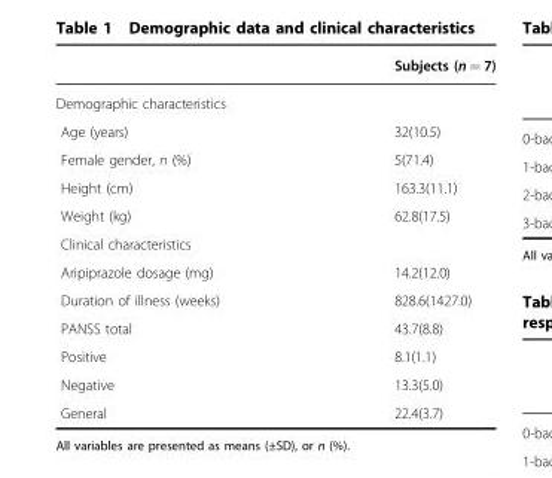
<table><thead><tr><td></td><td>Subjects (n = 7)</td></tr></thead><tbody><tr><td colspan="2">Demographic characteristics</td></tr><tr><td>Age (years)</td><td>32(10.5)</td></tr><tr><td>Female gender, n (%)</td><td>5(71.4)</td></tr><tr><td>Height (cm)</td><td>163.3(11.1)</td></tr><tr><td>Weight (kg)</td><td>62.8(17.5)</td></tr><tr><td colspan="2">Clinical characteristics</td></tr><tr><td>Aripiprazole dosage (mg)</td><td>14.2(12.0)</td></tr><tr><td>Duration of illness (weeks)</td><td>828.6(1427.0)</td></tr><tr><td>PANSS total</td><td>43.7(8.8)</td></tr><tr><td>Positive</td><td>8.1(1.1)</td></tr><tr><td>Negative</td><td>13.3(5.0)</td></tr><tr><td>General</td><td>22.4(3.7)</td></tr></tbody></table>